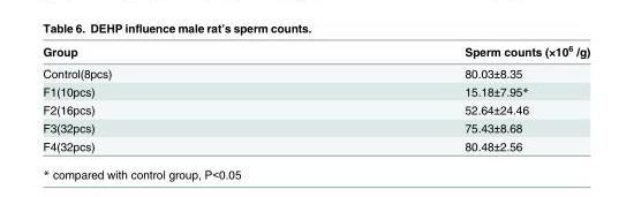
<table><thead><tr><td>Group</td><td>Sperm counts (×10<sup>6</sup> /g)</td></tr></thead><tbody><tr><td>Control(8pcs)</td><td>80.03±8.35</td></tr><tr><td>F1(10pcs)</td><td>15.18±7.95*</td></tr><tr><td>F2(16pcs)</td><td>52.64±24.46</td></tr><tr><td>F3(32pcs)</td><td>75.43±8.68</td></tr><tr><td>F4(32pcs)</td><td>80.48±2.56</td></tr></tbody></table>